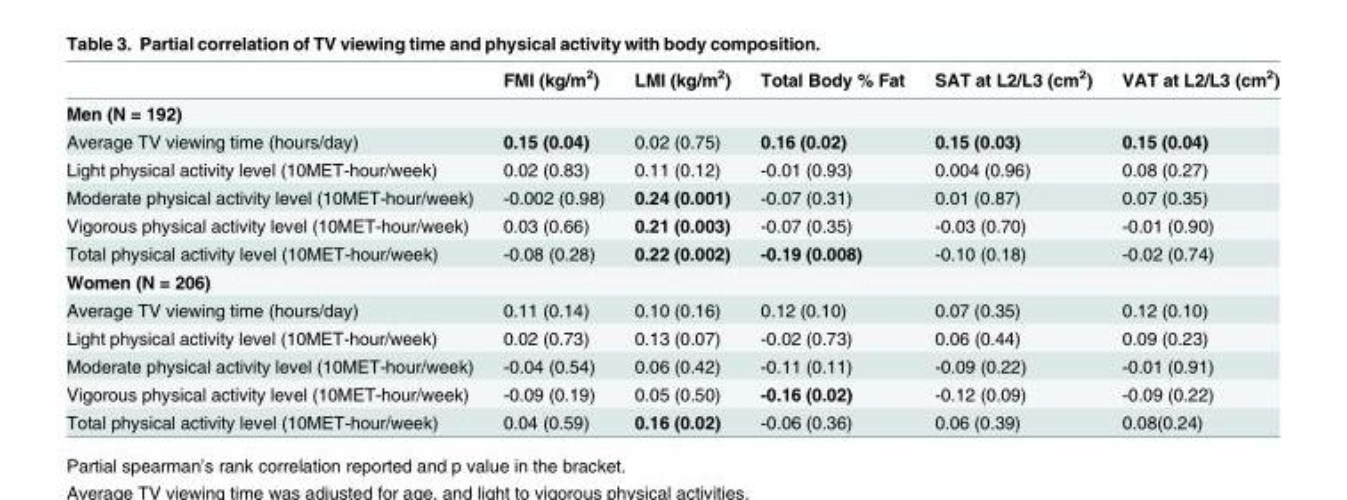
<table><thead><tr><td></td><td>FMI (kg/m<sup>2</sup>)</td><td>LMI (kg/m<sup>2</sup>)</td><td>Total Body % Fat</td><td>SAT at L2/L3 (cm<sup>2</sup>)</td><td>VAT at L2/L3 (cm<sup>2</sup>)</td></tr></thead><tbody><tr><td colspan="6">Men (N = 192)</td></tr><tr><td>Average TV viewing time (hours/day)</td><td>0.15 (0.04)</td><td>0.02 (0.75)</td><td>0.16 (0.02)</td><td>0.15 (0.03)</td><td>0.15 (0.04)</td></tr><tr><td>Light physical activity level (10MET-hour/week)</td><td>0.02 (0.83)</td><td>0.11 (0.12)</td><td>-0.01 (0.93)</td><td>0.004 (0.96)</td><td>0.08 (0.27)</td></tr><tr><td>Moderate physical activity level (10MET-hour/week)</td><td>-0.002 (0.98)</td><td>0.24 (0.001)</td><td>-0.07 (0.31)</td><td>0.01 (0.87)</td><td>0.07 (0.35)</td></tr><tr><td>Vigorous physical activity level (10MET-hour/week)</td><td>0.03 (0.66)</td><td>0.21 (0.003)</td><td>-0.07 (0.35)</td><td>-0.03 (0.70)</td><td>-0.01 (0.90)</td></tr><tr><td>Total physical activity level (10MET-hour/week)</td><td>-0.08 (0.28)</td><td>0.22 (0.002)</td><td>-0.19 (0.008)</td><td>-0.10 (0.18)</td><td>-0.02 (0.74)</td></tr><tr><td colspan="6">Women (N = 206)</td></tr><tr><td>Average TV viewing time (hours/day)</td><td>0.11 (0.14)</td><td>0.10 (0.16)</td><td>0.12 (0.10)</td><td>0.07 (0.35)</td><td>0.12 (0.10)</td></tr><tr><td>Light physical activity level (10MET-hour/week)</td><td>0.02 (0.73)</td><td>0.13 (0.07)</td><td>-0.02 (0.73)</td><td>0.06 (0.44)</td><td>0.09 (0.23)</td></tr><tr><td>Moderate physical activity level (10MET-hour/week)</td><td>-0.04 (0.54)</td><td>0.06 (0.42)</td><td>-0.11 (0.11)</td><td>-0.09 (0.22)</td><td>-0.01 (0.91)</td></tr><tr><td>Vigorous physical activity level (10MET-hour/week)</td><td>-0.09 (0.19)</td><td>0.05 (0.50)</td><td>-0.16 (0.02)</td><td>-0.12 (0.09)</td><td>-0.09 (0.22)</td></tr><tr><td>Total physical activity level (10MET-hour/week)</td><td>0.04 (0.59)</td><td>0.16 (0.02)</td><td>-0.06 (0.36)</td><td>0.06 (0.39)</td><td>0.08(0.24)</td></tr></tbody></table>